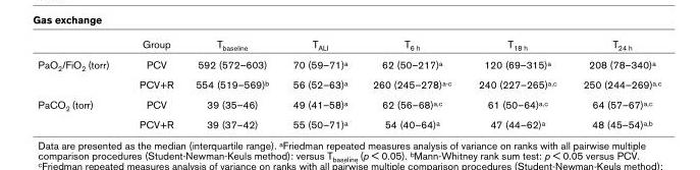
<table><thead><tr><td></td><td>Group</td><td>T<sub>baseline</sub></td><td>T<sub>ALI</sub></td><td>T<sub>6 h</sub></td><td>T<sub>18 h</sub></td><td>T<sub>24 h</sub></td></tr></thead><tbody><tr><td rowspan="2">PaO<sub>2</sub>/FiO<sub>2</sub> (torr)</td><td>PCV</td><td>592 (572–603)</td><td>70 (59–71)<sup>a</sup></td><td>62 (50–217)<sup>a</sup></td><td>120 (69–315)<sup>a</sup></td><td>208 (78–340)<sup>a</sup></td></tr><tr><td>PCV+R</td><td>554 (519–569)<sup>b</sup></td><td>56 (52–63)<sup>a</sup></td><td>260 (245–278)<sup>a-c</sup></td><td>240 (227–265)<sup>a,c</sup></td><td>250 (244–269)<sup>a,c</sup></td></tr><tr><td rowspan="2">PaCO<sub>2</sub> (torr)</td><td>PCV</td><td>39 (35–46)</td><td>49 (41–58)<sup>a</sup></td><td>62 (56–68)<sup>a,c</sup></td><td>61 (50–64)<sup>a,c</sup></td><td>64 (57–67)<sup>a,c</sup></td></tr><tr><td>PCV+R</td><td>39 (37–42)</td><td>55 (50–71)<sup>a</sup></td><td>54 (40–64)<sup>a</sup></td><td>47 (44–62)<sup>a</sup></td><td>48 (45–54)<sup>a,b</sup></td></tr></tbody></table>